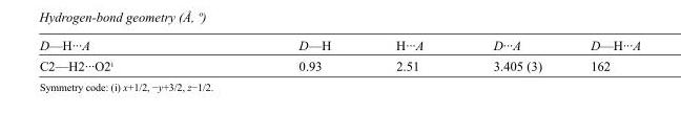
<table><tbody><tr><td>D—H···A</td><td>D—H</td><td>H···A</td><td>D···A</td><td>D—H···A</td></tr><tr><td>C2—H2···O2<sup>i</sup></td><td>0.93</td><td>2.51</td><td>3.405 (3)</td><td>162</td></tr></tbody></table>